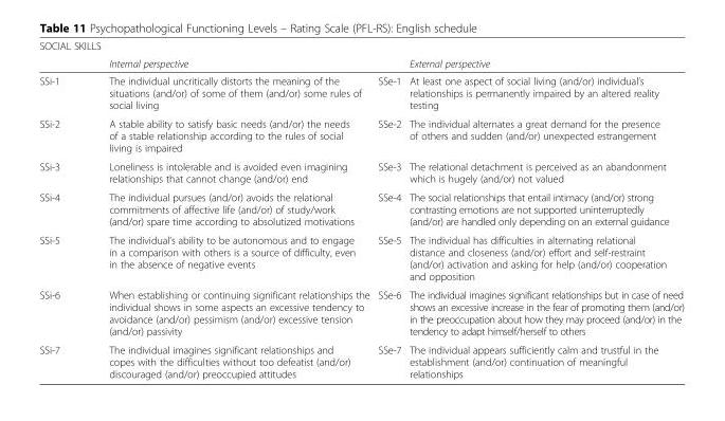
<table><thead><tr><td rowspan="2">SOCIAL SKILLS</td><td rowspan="2">Internal perspective</td><td rowspan="2"></td><td rowspan="2">External perspective</td></tr><tr></tr></thead><tbody><tr><td>SSi-1</td><td>The individual uncritically distorts the meaning of the situations (and/or) of some of them (and/or) some rules of social living</td><td>SSe-1</td><td>At least one aspect of social living (and/or) individual’s relationships is permanently impaired by an altered reality testing</td></tr><tr><td>SSi-2</td><td>A stable ability to satisfy basic needs (and/or) the needs of a stable relationship according to the rules of social living is impaired</td><td>SSe-2</td><td>The individual alternates a great demand for the presence of others and sudden (and/or) unexpected estrangement</td></tr><tr><td>SSi-3</td><td>Loneliness is intolerable and is avoided even imagining relationships that cannot change (and/or) end</td><td>SSe-3</td><td>The relational detachment is perceived as an abandonment which is hugely (and/or) not valued</td></tr><tr><td>SSi-4</td><td>The individual pursues (and/or) avoids the relational commitments of affective life (and/or) of study/work (and/or) spare time according to absolutized motivations</td><td>SSe-4</td><td>The social relationships that entail intimacy (and/or) strong contrasting emotions are not supported uninterruptedly (and/or) are handled only depending on an external guidance</td></tr><tr><td>SSi-5</td><td>The individual’s ability to be autonomous and to engage in a comparison with others is a source of difficulty, even in the absence of negative events</td><td>SSe-5</td><td>The individual has difficulties in alternating relational distance and closeness (and/or) effort and self-restraint (and/or) activation and asking for help (and/or) cooperation and opposition</td></tr><tr><td>SSi-6</td><td>When establishing or continuing significant relationships the individual shows in some aspects an excessive tendency to avoidance (and/or) pessimism (and/or) excessive tension (and/or) passivity</td><td>SSe-6</td><td>The individual imagines significant relationships but in case of need shows an excessive increase in the fear of promoting them (and/or) in the preoccupation about how they may proceed (and/or) in the tendency to adapt himself/herself to others</td></tr><tr><td>SSi-7</td><td>The individual imagines significant relationships and copes with the difficulties without too defeatist (and/or) discouraged (and/or) preoccupied attitudes</td><td>SSe-7</td><td>The individual appears sufficiently calm and trustful in the establishment (and/or) continuation of meaningful relationships</td></tr></tbody></table>